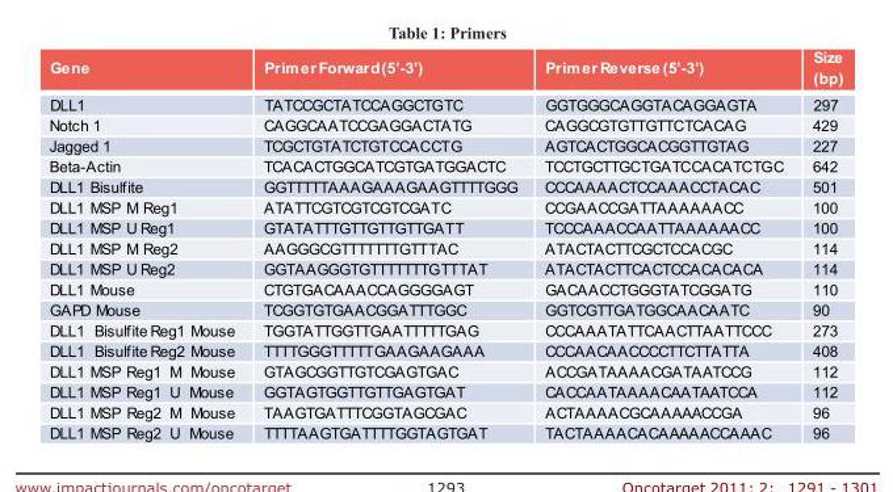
<table><thead><tr><td>Gene</td><td>Primer Forward (5’-3’)</td><td>Primer Reverse (5’-3’)</td><td>Size (bp)</td></tr></thead><tbody><tr><td>DLL1</td><td>TATCCGCTATCCAGGCTGTC</td><td>GGTGGGCAGGTACAGGAGTA</td><td>297</td></tr><tr><td>Notch 1</td><td>CAGGCAATCCGAGGACTATG</td><td>CAGGCGTGTTGTTCTCACAG</td><td>429</td></tr><tr><td>Jagged 1</td><td>TCGCTGTATCTGTCCACCTG</td><td>AGTCACTGGCACGGTTGTAG</td><td>227</td></tr><tr><td>Beta-Actin</td><td>TCACACTGGCATCGTGATGGACTC</td><td>TCCTGCTTGCTGATCCACATCTGC</td><td>642</td></tr><tr><td>DLL1 Bisulfite</td><td>GGTTTTTAAAGAAAGAAGTTTTGGG</td><td>CCCAAAACTCCAAACCTACAC</td><td>501</td></tr><tr><td>DLL1 MSP M Reg1</td><td>ATATTCGTCGTCGTCGATC</td><td>CCGAACCGATTAAAAAACC</td><td>100</td></tr><tr><td>DLL1 MSP U Reg1</td><td>GTATATTTGTTGTTGTTGATT</td><td>TCCCAAACCAATTAAAAAACC</td><td>100</td></tr><tr><td>DLL1 MSP M Reg2</td><td>AAGGGCGTTTTTTTGTTTAC</td><td>ATACTACTTCGCTCCACGC</td><td>114</td></tr><tr><td>DLL1 MSP U Reg2</td><td>GGTAAGGGTGTTTTTTTGTTTAT</td><td>ATACTACTTCACTCCACACACA</td><td>114</td></tr><tr><td>DLL1 Mouse</td><td>CTGTGACAAACCAGGGGAGT</td><td>GACAACCTGGGTATCGGATG</td><td>110</td></tr><tr><td>GAPD Mouse</td><td>TCGGTGTGAACGGATTTGGC</td><td>GGTCGTTGATGGCAACAATC</td><td>90</td></tr><tr><td>DLL1 Bisulfite Reg1 Mouse</td><td>TGGTATTGGTTGAATTTTTGAG</td><td>CCCAAATATTCAACTTAATTCCC</td><td>273</td></tr><tr><td>DLL1 Bisulfite Reg2 Mouse</td><td>TTTTGGGTTTTTGAAGAAGAAA</td><td>CCCAACAACCCCTTCTTATTA</td><td>408</td></tr><tr><td>DLL1 MSP Reg1 M Mouse</td><td>GTAGCGGTTGTCGAGTGAC</td><td>ACCGATAAAACGATAATCCG</td><td>112</td></tr><tr><td>DLL1 MSP Reg1 U Mouse</td><td>GGTAGTGGTTGTTGAGTGAT</td><td>CACCAATAAAACAATAATCCA</td><td>112</td></tr><tr><td>DLL1 MSP Reg2 M Mouse</td><td>TAAGTGATTTCGGTAGCGAC</td><td>ACTAAAACGCAAAAACCGA</td><td>96</td></tr><tr><td>DLL1 MSP Reg2 U Mouse</td><td>TTTTAAGTGATTTTGGTAGTGAT</td><td>TACTAAAACACAAAAACCAAAC</td><td>96</td></tr></tbody></table>